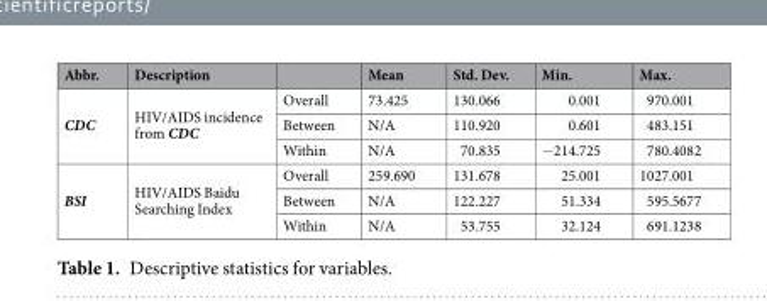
<table><thead><tr><td>Abbr.</td><td>Description</td><td></td><td>Mean</td><td>Std. Dev.</td><td>Min.</td><td>Max.</td></tr></thead><tbody><tr><td rowspan="3">CDC</td><td rowspan="3">HIV/AIDS incidence from CDC</td><td>Overall</td><td>73.425</td><td>130.066</td><td>0.001</td><td>970.001</td></tr><tr><td>Between</td><td>N/A</td><td>110.920</td><td>0.601</td><td>483.151</td></tr><tr><td>Within</td><td>N/A</td><td>70.835</td><td>−214.725</td><td>780.4082</td></tr><tr><td rowspan="3">BSI</td><td rowspan="3">HIV/AIDS Baidu Searching Index</td><td>Overall</td><td>259.690</td><td>131.678</td><td>25.001</td><td>1027.001</td></tr><tr><td>Between</td><td>N/A</td><td>122.227</td><td>51.334</td><td>595.5677</td></tr><tr><td>Within</td><td>N/A</td><td>53.755</td><td>32.124</td><td>691.1238</td></tr></tbody></table>